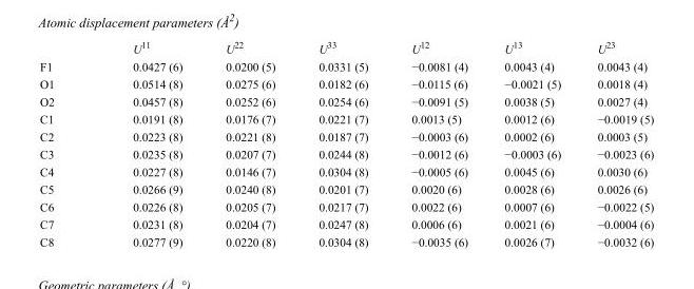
<table><thead><tr><td></td><td>U<sup>11</sup></td><td>U<sup>22</sup></td><td>U<sup>33</sup></td><td>U<sup>12</sup></td><td>U<sup>13</sup></td><td>U<sup>23</sup></td></tr></thead><tbody><tr><td>F1</td><td>0.0427 (6)</td><td>0.0200 (5)</td><td>0.0331 (5)</td><td>−0.0081 (4)</td><td>0.0043 (4)</td><td>0.0043 (4)</td></tr><tr><td>O1</td><td>0.0514 (8)</td><td>0.0275 (6)</td><td>0.0182 (6)</td><td>−0.0115 (6)</td><td>−0.0021 (5)</td><td>0.0018 (4)</td></tr><tr><td>O2</td><td>0.0457 (8)</td><td>0.0252 (6)</td><td>0.0254 (6)</td><td>−0.0091 (5)</td><td>0.0038 (5)</td><td>0.0027 (4)</td></tr><tr><td>C1</td><td>0.0191 (8)</td><td>0.0176 (7)</td><td>0.0221 (7)</td><td>0.0013 (5)</td><td>0.0012 (6)</td><td>−0.0019 (5)</td></tr><tr><td>C2</td><td>0.0223 (8)</td><td>0.0221 (8)</td><td>0.0187 (7)</td><td>−0.0003 (6)</td><td>0.0002 (6)</td><td>0.0003 (5)</td></tr><tr><td>C3</td><td>0.0235 (8)</td><td>0.0207 (7)</td><td>0.0244 (8)</td><td>−0.0012 (6)</td><td>−0.0003 (6)</td><td>−0.0023 (6)</td></tr><tr><td>C4</td><td>0.0227 (8)</td><td>0.0146 (7)</td><td>0.0304 (8)</td><td>−0.0005 (6)</td><td>0.0045 (6)</td><td>0.0030 (6)</td></tr><tr><td>C5</td><td>0.0266 (9)</td><td>0.0240 (8)</td><td>0.0201 (7)</td><td>0.0020 (6)</td><td>0.0028 (6)</td><td>0.0026 (6)</td></tr><tr><td>C6</td><td>0.0226 (8)</td><td>0.0205 (7)</td><td>0.0217 (7)</td><td>0.0022 (6)</td><td>0.0007 (6)</td><td>−0.0022 (5)</td></tr><tr><td>C7</td><td>0.0231 (8)</td><td>0.0204 (7)</td><td>0.0247 (8)</td><td>0.0006 (6)</td><td>0.0021 (6)</td><td>−0.0004 (6)</td></tr><tr><td>C8</td><td>0.0277 (9)</td><td>0.0220 (8)</td><td>0.0304 (8)</td><td>−0.0035 (6)</td><td>0.0026 (7)</td><td>−0.0032 (6)</td></tr></tbody></table>